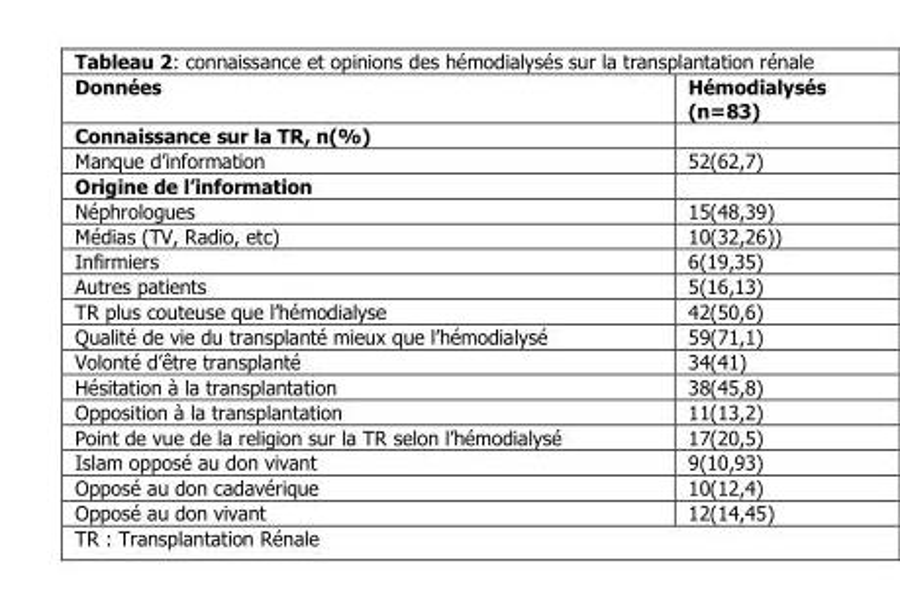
<table><thead><tr><td>Données</td><td>Hémodialysés (n=83)</td></tr></thead><tbody><tr><td colspan="2">Connaissance sur la TR, n(%)</td></tr><tr><td>Manque d’information</td><td>52(62,7)</td></tr><tr><td colspan="2">Origine de l’information</td></tr><tr><td>Néphrologues</td><td>15(48,39)</td></tr><tr><td>Médias (TV, Radio, etc)</td><td>10(32,26))</td></tr><tr><td>Infirmiers</td><td>6(19,35)</td></tr><tr><td>Autres patients</td><td>5(16,13)</td></tr><tr><td>TR plus couteuse que l’hémodialyse</td><td>42(50,6)</td></tr><tr><td>Qualité de vie du transplanté mieux que l’hémodialysé</td><td>59(71,1)</td></tr><tr><td>Volonté d’être transplanté</td><td>34(41)</td></tr><tr><td>Hésitation à la transplantation</td><td>38(45,8)</td></tr><tr><td>Opposition à la transplantation</td><td>11(13,2)</td></tr><tr><td>Point de vue de la religion sur la TR selon l’hémodialysé</td><td>17(20,5)</td></tr><tr><td>Islam opposé au don vivant</td><td>9(10,93)</td></tr><tr><td>Opposé au don cadavérique</td><td>10(12,4)</td></tr><tr><td>Opposé au don vivant</td><td>12(14,45)</td></tr></tbody></table>